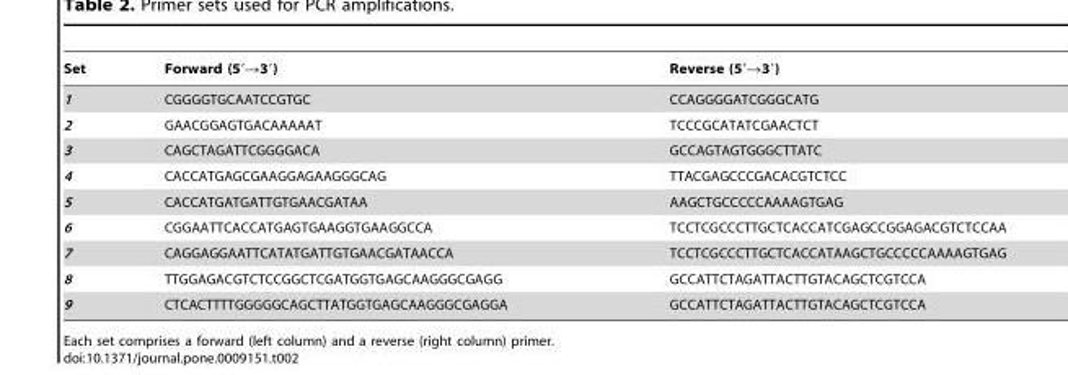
<table><thead><tr><td>Set</td><td>Forward (5′→3′)</td><td>Reverse (5′→3′)</td></tr></thead><tbody><tr><td>1</td><td>CGGGGTGCAATCCGTGC</td><td>CCAGGGGATCGGGCATG</td></tr><tr><td>2</td><td>GAACGGAGTGACAAAAAT</td><td>TCCCGCATATCGAACTCT</td></tr><tr><td>3</td><td>CAGCTAGATTCGGGGACA</td><td>GCCAGTAGTGGGCTTATC</td></tr><tr><td>4</td><td>CACCATGAGCGAAGGAGAAGGGCAG</td><td>TTACGAGCCCGACACGTCTCC</td></tr><tr><td>5</td><td>CACCATGATGATTGTGAACGATAA</td><td>AAGCTGCCCCCAAAAGTGAG</td></tr><tr><td>6</td><td>CGGAATTCACCATGAGTGAAGGTGAAGGCCA</td><td>TCCTCGCCCTTGCTCACCATCGAGCCGGAGACGTCTCCAA</td></tr><tr><td>7</td><td>CAGGAGGAATTCATATGATTGTGAACGATAACCA</td><td>TCCTCGCCCTTGCTCACCATAAGCTGCCCCCAAAAGTGAG</td></tr><tr><td>8</td><td>TTGGAGACGTCTCCGGCTCGATGGTGAGCAAGGGCGAGG</td><td>GCCATTCTAGATTACTTGTACAGCTCGTCCA</td></tr><tr><td>9</td><td>CTCACTTTTGGGGGCAGCTTATGGTGAGCAAGGGCGAGGA</td><td>GCCATTCTAGATTACTTGTACAGCTCGTCCA</td></tr></tbody></table>